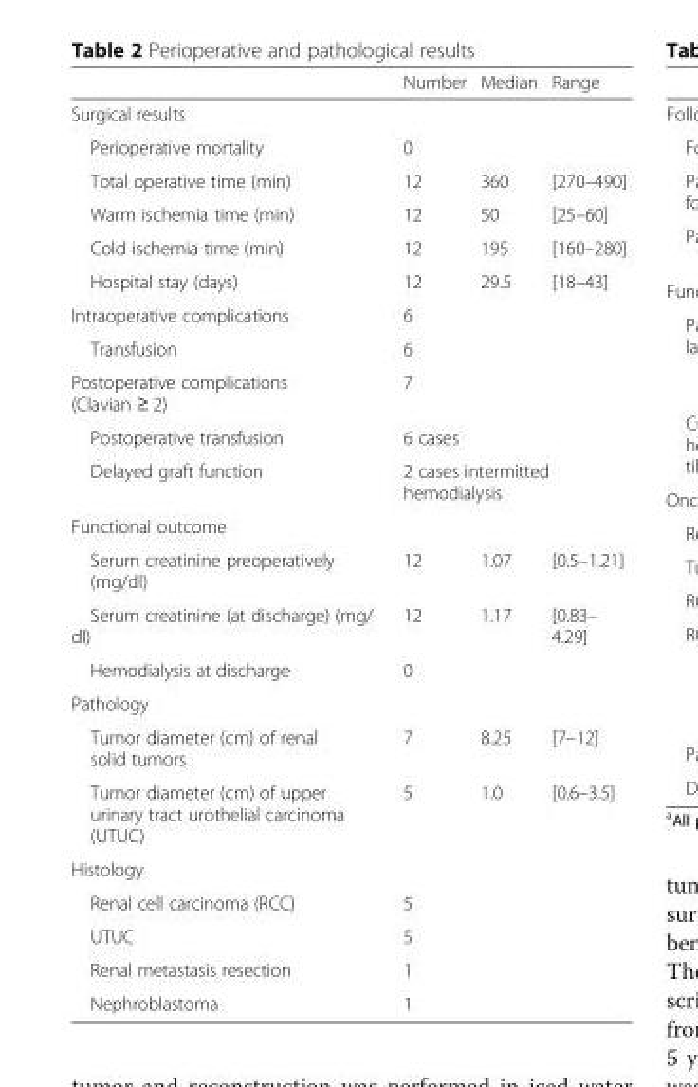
<table><thead><tr><td></td><td>Number</td><td>Median</td><td>Range</td></tr></thead><tbody><tr><td colspan="4">Surgical results</td></tr><tr><td>Perioperative mortality</td><td>0</td><td></td><td></td></tr><tr><td>Total operative time (min)</td><td>12</td><td>360</td><td>[270–490]</td></tr><tr><td>Warm ischemia time (min)</td><td>12</td><td>50</td><td>[25–60]</td></tr><tr><td>Cold ischemia time (min)</td><td>12</td><td>195</td><td>[160–280]</td></tr><tr><td>Hospital stay (days)</td><td>12</td><td>29.5</td><td>[18–43]</td></tr><tr><td>Intraoperative complications</td><td>6</td><td></td><td></td></tr><tr><td>Transfusion</td><td>6</td><td></td><td></td></tr><tr><td>Postoperative complications (Clavian ≥ 2)</td><td colspan="3">7</td></tr><tr><td>Postoperative transfusion</td><td colspan="3">6 cases</td></tr><tr><td>Delayed graft function</td><td colspan="3">2 cases intermitted hemodialysis</td></tr><tr><td colspan="4">Functional outcome</td></tr><tr><td>Serum creatinine preoperatively (mg/dl)</td><td>12</td><td>1.07</td><td>[0.5–1.21]</td></tr><tr><td>Serum creatinine (at discharge) (mg/ dl)</td><td>12</td><td>1.17</td><td>[0.83– 4.29]</td></tr><tr><td>Hemodialysis at discharge</td><td colspan="3">0</td></tr><tr><td colspan="4">Pathology</td></tr><tr><td>Tumor diameter (cm) of renal solid tumors</td><td>7</td><td>8.25</td><td>[7–12]</td></tr><tr><td>Tumor diameter (cm) of upper urinary tract urothelial carcinoma (UTUC)</td><td>5</td><td>1.0</td><td>[0.6–3.5]</td></tr><tr><td colspan="4">Histology</td></tr><tr><td>Renal cell carcinoma (RCC)</td><td>5</td><td></td><td></td></tr><tr><td>UTUC</td><td>5</td><td></td><td></td></tr><tr><td>Renal metastasis resection</td><td>1</td><td></td><td></td></tr><tr><td>Nephroblastoma</td><td>1</td><td></td><td></td></tr></tbody></table>